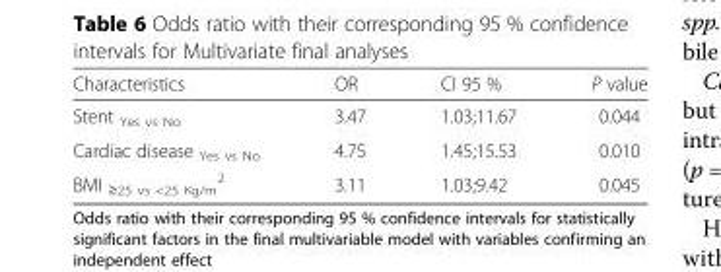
<table><thead><tr><td>Characteristics</td><td>OR</td><td>CI 95 %</td><td>P value</td></tr></thead><tbody><tr><td>Stent <sub>Yes vs No</sub></td><td>3.47</td><td>1.03;11.67</td><td>0.044</td></tr><tr><td>Cardiac disease <sub>Yes vs No</sub></td><td>4.75</td><td>1.45;15.53</td><td>0.010</td></tr><tr><td>BMI <sub>≥25 vs &lt;25 Kg/m</sub> <sup>2</sup></td><td>3.11</td><td>1.03;9.42</td><td>0.045</td></tr></tbody></table>